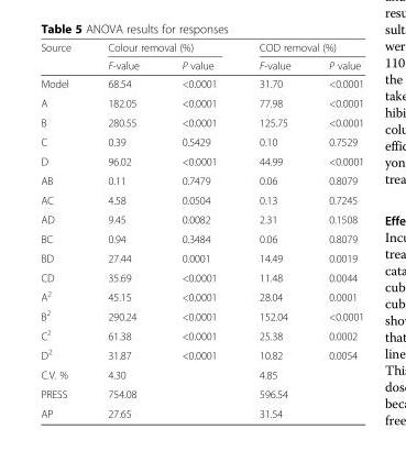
<table><thead><tr><td rowspan="2">Source</td><td colspan="2">Colour removal (%)</td><td colspan="2">COD removal (%)</td></tr><tr><td>F-value</td><td>P value</td><td>F-value</td><td>P value</td></tr></thead><tbody><tr><td>Model</td><td>68.54</td><td>&lt;0.0001</td><td>31.70</td><td>&lt;0.0001</td></tr><tr><td>A</td><td>182.05</td><td>&lt;0.0001</td><td>77.98</td><td>&lt;0.0001</td></tr><tr><td>B</td><td>280.55</td><td>&lt;0.0001</td><td>125.75</td><td>&lt;0.0001</td></tr><tr><td>C</td><td>0.39</td><td>0.5429</td><td>0.10</td><td>0.7529</td></tr><tr><td>D</td><td>96.02</td><td>&lt;0.0001</td><td>44.99</td><td>&lt;0.0001</td></tr><tr><td>AB</td><td>0.11</td><td>0.7479</td><td>0.06</td><td>0.8079</td></tr><tr><td>AC</td><td>4.58</td><td>0.0504</td><td>0.13</td><td>0.7245</td></tr><tr><td>AD</td><td>9.45</td><td>0.0082</td><td>2.31</td><td>0.1508</td></tr><tr><td>BC</td><td>0.94</td><td>0.3484</td><td>0.06</td><td>0.8079</td></tr><tr><td>BD</td><td>27.44</td><td>0.0001</td><td>14.49</td><td>0.0019</td></tr><tr><td>CD</td><td>35.69</td><td>&lt;0.0001</td><td>11.48</td><td>0.0044</td></tr><tr><td>A<sup>2</sup></td><td>45.15</td><td>&lt;0.0001</td><td>28.04</td><td>0.0001</td></tr><tr><td>B<sup>2</sup></td><td>290.24</td><td>&lt;0.0001</td><td>152.04</td><td>&lt;0.0001</td></tr><tr><td>C<sup>2</sup></td><td>61.38</td><td>&lt;0.0001</td><td>25.38</td><td>0.0002</td></tr><tr><td>D<sup>2</sup></td><td>31.87</td><td>&lt;0.0001</td><td>10.82</td><td>0.0054</td></tr><tr><td>C.V. %</td><td colspan="2">4.30</td><td colspan="2">4.85</td></tr><tr><td>PRESS</td><td colspan="2">754.08</td><td colspan="2">596.54</td></tr><tr><td>AP</td><td colspan="2">27.65</td><td colspan="2">31.54</td></tr></tbody></table>